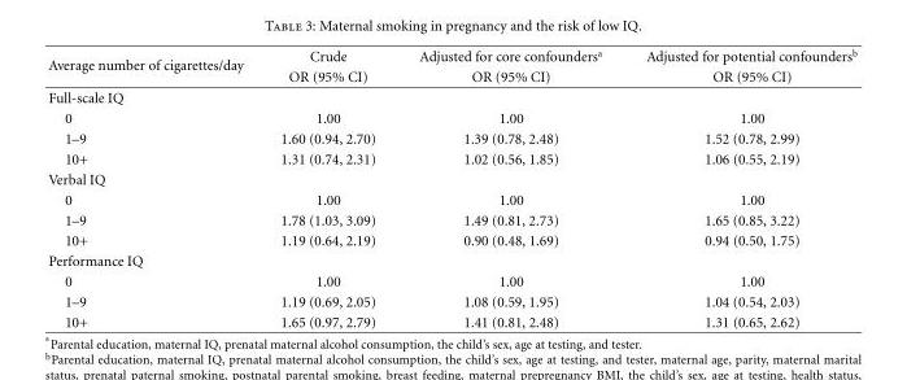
<table><thead><tr><td rowspan="2">Average number of cigarettes/day</td><td rowspan="2">Crude OR (95% CI)</td><td rowspan="2">Adjusted for core confounders<sup>a</sup> OR (95% CI)</td><td rowspan="2">Adjusted for potential confounders<sup>b</sup> OR (95% CI)</td></tr><tr></tr></thead><tbody><tr><td colspan="4">Full-scale IQ</td></tr><tr><td>0</td><td>1.00</td><td>1.00</td><td>1.00</td></tr><tr><td>1–9</td><td>1.60 (0.94, 2.70)</td><td>1.39 (0.78, 2.48)</td><td>1.52 (0.78, 2.99)</td></tr><tr><td>10+</td><td>1.31 (0.74, 2.31)</td><td>1.02 (0.56, 1.85)</td><td>1.06 (0.55, 2.19)</td></tr><tr><td colspan="4">Verbal IQ</td></tr><tr><td>0</td><td>1.00</td><td>1.00</td><td>1.00</td></tr><tr><td>1–9</td><td>1.78 (1.03, 3.09)</td><td>1.49 (0.81, 2.73)</td><td>1.65 (0.85, 3.22)</td></tr><tr><td>10+</td><td>1.19 (0.64, 2.19)</td><td>0.90 (0.48, 1.69)</td><td>0.94 (0.50, 1.75)</td></tr><tr><td colspan="4">Performance IQ</td></tr><tr><td>0</td><td>1.00</td><td>1.00</td><td>1.00</td></tr><tr><td>1–9</td><td>1.19 (0.69, 2.05)</td><td>1.08 (0.59, 1.95)</td><td>1.04 (0.54, 2.03)</td></tr><tr><td>10+</td><td>1.65 (0.97, 2.79)</td><td>1.41 (0.81, 2.48)</td><td>1.31 (0.65, 2.62)</td></tr></tbody></table>